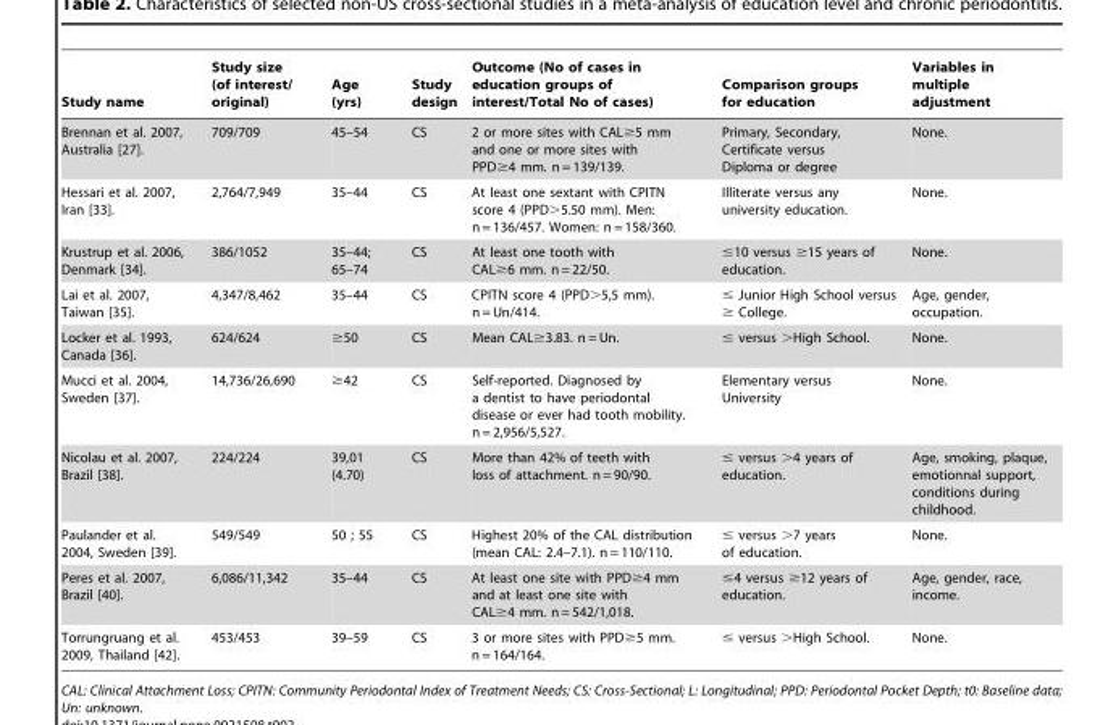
<table><thead><tr><td>Study name</td><td>Study size (of interest/ original)</td><td>Age (yrs)</td><td>Study design</td><td>Outcome (No of cases in education groups of interest/Total No of cases)</td><td>Comparison groups for education</td><td>Variables in multiple adjustment</td></tr></thead><tbody><tr><td>Brennan et al. 2007, Australia [27].</td><td>709/709</td><td>45–54</td><td>CS</td><td>2 or more sites with CAL≥5 mm and one or more sites with PPD≥4 mm. n = 139/139.</td><td>Primary, Secondary, Certificate versus Diploma or degree</td><td>None.</td></tr><tr><td>Hessari et al. 2007, Iran [33].</td><td>2,764/7,949</td><td>35–44</td><td>CS</td><td>At least one sextant with CPITN score 4 (PPD&gt;5.50 mm). Men: n = 136/457. Women: n = 158/360.</td><td>Illiterate versus any university education.</td><td>None.</td></tr><tr><td>Krustrup et al. 2006, Denmark [34].</td><td>386/1052</td><td>35–44; 65–74</td><td>CS</td><td>At least one tooth with CAL≥6 mm. n = 22/50.</td><td>≤10 versus ≥15 years of education.</td><td>None.</td></tr><tr><td>Lai et al. 2007, Taiwan [35].</td><td>4,347/8,462</td><td>35–44</td><td>CS</td><td>CPITN score 4 (PPD&gt;5,5 mm). n = Un/414.</td><td>≤ Junior High School versus ≥ College.</td><td>Age, gender, occupation.</td></tr><tr><td>Locker et al. 1993, Canada [36].</td><td>624/624</td><td>≥50</td><td>CS</td><td>Mean CAL≥3.83. n = Un.</td><td>≤ versus &gt;High School.</td><td>None.</td></tr><tr><td>Mucci et al. 2004, Sweden [37].</td><td>14,736/26,690</td><td>≥42</td><td>CS</td><td>Self-reported. Diagnosed by a dentist to have periodontal disease or ever had tooth mobility. n = 2,956/5,527.</td><td>Elementary versus University</td><td>None.</td></tr><tr><td>Nicolau et al. 2007, Brazil [38].</td><td>224/224</td><td>39,01 (4.70)</td><td>CS</td><td>More than 42% of teeth with loss of attachment. n = 90/90.</td><td>≤ versus &gt;4 years of education.</td><td>Age, smoking, plaque, emotionnal support, conditions during childhood.</td></tr><tr><td>Paulander et al. 2004, Sweden [39].</td><td>549/549</td><td>50 ; 55</td><td>CS</td><td>Highest 20% of the CAL distribution (mean CAL: 2.4–7.1). n = 110/110.</td><td>≤ versus &gt;7 years of education.</td><td>None.</td></tr><tr><td>Peres et al. 2007, Brazil [40].</td><td>6,086/11,342</td><td>35–44</td><td>CS</td><td>At least one site with PPD≥4 mm and at least one site with CAL≥4 mm. n = 542/1,018.</td><td>≤4 versus ≥12 years of education.</td><td>Age, gender, race, income.</td></tr><tr><td>Torrungruang et al. 2009, Thailand [42].</td><td>453/453</td><td>39–59</td><td>CS</td><td>3 or more sites with PPD≥5 mm. n = 164/164.</td><td>≤ versus &gt;High School.</td><td>None.</td></tr></tbody></table>